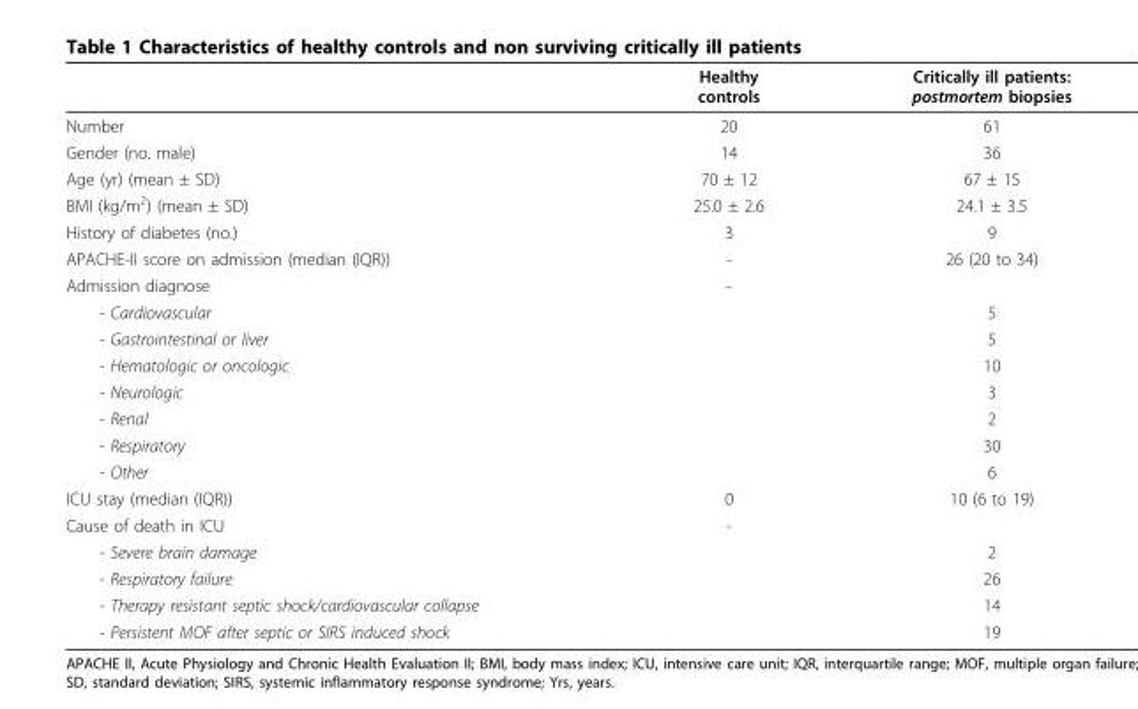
<table><thead><tr><td></td><td>Healthy controls</td><td>Critically ill patients: postmortem biopsies</td></tr></thead><tbody><tr><td>Number</td><td>20</td><td>61</td></tr><tr><td>Gender (no. male)</td><td>14</td><td>36</td></tr><tr><td>Age (yr) (mean ± SD)</td><td>70 ± 12</td><td>67 ± 15</td></tr><tr><td>BMI (kg/m<sup>2</sup>) (mean ± SD)</td><td>25.0 ± 2.6</td><td>24.1 ± 3.5</td></tr><tr><td>History of diabetes (no.)</td><td>3</td><td>9</td></tr><tr><td>APACHE-II score on admission (median (IQR))</td><td>-</td><td>26 (20 to 34)</td></tr><tr><td>Admission diagnose</td><td>-</td><td></td></tr><tr><td>- Cardiovascular</td><td></td><td>5</td></tr><tr><td>- Gastrointestinal or liver</td><td></td><td>5</td></tr><tr><td>- Hematologic or oncologic</td><td></td><td>10</td></tr><tr><td>- Neurologic</td><td></td><td>3</td></tr><tr><td>- Renal</td><td></td><td>2</td></tr><tr><td>- Respiratory</td><td></td><td>30</td></tr><tr><td>- Other</td><td></td><td>6</td></tr><tr><td>ICU stay (median (IQR))</td><td>0</td><td>10 (6 to 19)</td></tr><tr><td>Cause of death in ICU</td><td>-</td><td></td></tr><tr><td>- Severe brain damage</td><td></td><td>2</td></tr><tr><td>- Respiratory failure</td><td></td><td>26</td></tr><tr><td>- Therapy resistant septic shock/cardiovascular collapse</td><td></td><td>14</td></tr><tr><td>- Persistent MOF after septic or SIRS induced shock</td><td></td><td>19</td></tr></tbody></table>